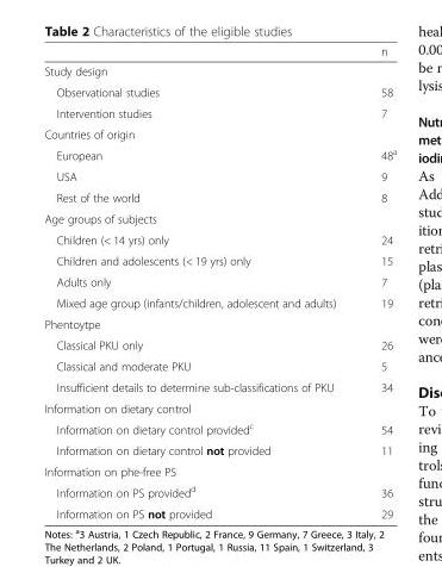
<table><thead><tr><td></td><td>n</td></tr></thead><tbody><tr><td colspan="2">Study design</td></tr><tr><td>Observational studies</td><td>58</td></tr><tr><td>Intervention studies</td><td>7</td></tr><tr><td colspan="2">Countries of origin</td></tr><tr><td>European</td><td>48<sup>a</sup></td></tr><tr><td>USA</td><td>9</td></tr><tr><td>Rest of the world</td><td>8</td></tr><tr><td colspan="2">Age groups of subjects</td></tr><tr><td>Children (&lt; 14 yrs) only</td><td>24</td></tr><tr><td>Children and adolescents (&lt; 19 yrs) only</td><td>15</td></tr><tr><td>Adults only</td><td>7</td></tr><tr><td>Mixed age group (infants/children, adolescent and adults)</td><td>19</td></tr><tr><td colspan="2">Phentoytpe</td></tr><tr><td>Classical PKU only</td><td>26</td></tr><tr><td>Classical and moderate PKU</td><td>5</td></tr><tr><td>Insufficient details to determine sub-classifications of PKU</td><td>34</td></tr><tr><td colspan="2">Information on dietary control</td></tr><tr><td>Information on dietary control provided<sup>c</sup></td><td>54</td></tr><tr><td>Information on dietary control not provided</td><td>11</td></tr><tr><td colspan="2">Information on phe-free PS</td></tr><tr><td>Information on PS provided<sup>d</sup></td><td>36</td></tr><tr><td>Information on PS not provided</td><td>29</td></tr></tbody></table>